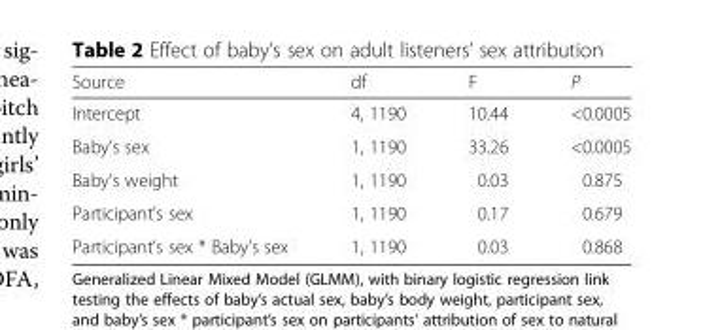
<table><thead><tr><td>Source</td><td>df</td><td>F</td><td>P</td></tr></thead><tbody><tr><td>Intercept</td><td>4, 1190</td><td>10.44</td><td>&lt;0.0005</td></tr><tr><td>Baby’s sex</td><td>1, 1190</td><td>33.26</td><td>&lt;0.0005</td></tr><tr><td>Baby’s weight</td><td>1, 1190</td><td>0.03</td><td>0.875</td></tr><tr><td>Participant’s sex</td><td>1, 1190</td><td>0.17</td><td>0.679</td></tr><tr><td>Participant’s sex * Baby’s sex</td><td>1, 1190</td><td>0.03</td><td>0.868</td></tr></tbody></table>